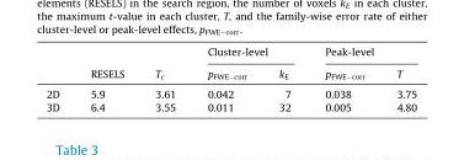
<table><thead><tr><td rowspan="2"></td><td rowspan="2">RESELS</td><td rowspan="2">T<sub>c</sub></td><td colspan="2">Cluster-level</td><td colspan="2">Peak-level</td></tr><tr><td>p<sub>FWE−corr</sub></td><td>k<sub>E</sub></td><td>p<sub>FWE−corr</sub></td><td>T</td></tr></thead><tbody><tr><td>2D</td><td>5.9</td><td>3.61</td><td>0.042</td><td>7</td><td>0.038</td><td>3.75</td></tr><tr><td>3D</td><td>6.4</td><td>3.55</td><td>0.011</td><td>32</td><td>0.005</td><td>4.80</td></tr></tbody></table>